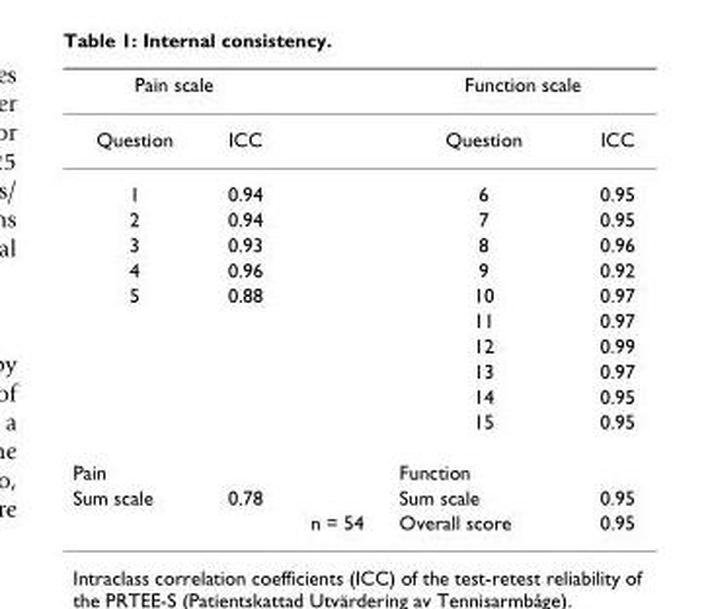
<table><thead><tr><td colspan="2">Pain scale</td><td rowspan="2"></td><td colspan="2">Function scale</td></tr><tr><td>Question</td><td>ICC</td><td>Question</td><td>ICC</td></tr></thead><tbody><tr><td>1</td><td>0.94</td><td></td><td>6</td><td>0.95</td></tr><tr><td>2</td><td>0.94</td><td></td><td>7</td><td>0.95</td></tr><tr><td>3</td><td>0.93</td><td></td><td>8</td><td>0.96</td></tr><tr><td>4</td><td>0.96</td><td></td><td>9</td><td>0.92</td></tr><tr><td rowspan="6">5</td><td>0.88</td><td></td><td>10</td><td>0.97</td></tr><tr><td></td><td></td><td>11</td><td>0.97</td></tr><tr><td></td><td></td><td>12</td><td>0.99</td></tr><tr><td></td><td></td><td>13</td><td>0.97</td></tr><tr><td></td><td></td><td>14</td><td>0.95</td></tr><tr><td></td><td></td><td>15</td><td>0.95</td></tr><tr><td>Pain</td><td></td><td></td><td>Function</td><td></td></tr><tr><td rowspan="2">Sum scale</td><td>0.78</td><td></td><td>Sum scale</td><td>0.95</td></tr><tr><td></td><td>n = 54</td><td>Overall score</td><td>0.95</td></tr></tbody></table>